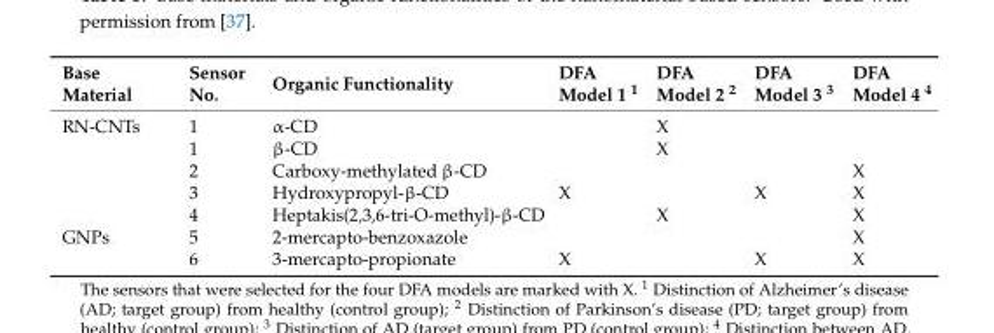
<table><thead><tr><td>Base Material</td><td>Sensor No.</td><td>Organic Functionality</td><td>DFA Model 1 <sup>1</sup></td><td>DFA Model 2 <sup>2</sup></td><td>DFA Model 3 <sup>3</sup></td><td>DFA Model 4 <sup>4</sup></td></tr></thead><tbody><tr><td rowspan="5">RN-CNTs</td><td>1</td><td>α-CD</td><td></td><td>X</td><td></td><td></td></tr><tr><td>1</td><td>β-CD</td><td></td><td>X</td><td></td><td></td></tr><tr><td>2</td><td>Carboxy-methylated β-CD</td><td></td><td></td><td></td><td>X</td></tr><tr><td>3</td><td>Hydroxypropyl-β-CD</td><td>X</td><td></td><td>X</td><td>X</td></tr><tr><td>4</td><td>Heptakis(2,3,6-tri-O-methyl)-β-CD</td><td></td><td>X</td><td></td><td>X</td></tr><tr><td rowspan="2">GNPs</td><td>5</td><td>2-mercapto-benzoxazole</td><td></td><td></td><td></td><td>X</td></tr><tr><td>6</td><td>3-mercapto-propionate</td><td>X</td><td></td><td>X</td><td>X</td></tr></tbody></table>